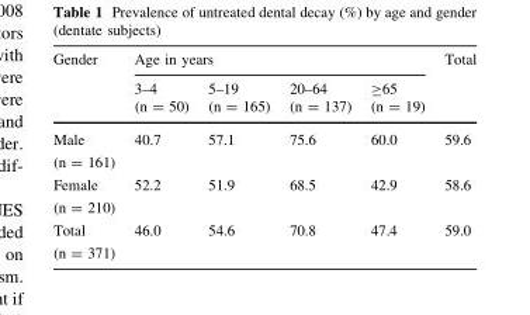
<table><thead><tr><td rowspan="2">Gender</td><td colspan="4">Age in years</td><td rowspan="2">Total</td></tr><tr><td>3–4 (n = 50)</td><td>5–19 (n = 165)</td><td>20–64 (n = 137)</td><td>≥65 (n = 19)</td></tr></thead><tbody><tr><td>Male (n = 161)</td><td>40.7</td><td>57.1</td><td>75.6</td><td>60.0</td><td>59.6</td></tr><tr><td>Female (n = 210)</td><td>52.2</td><td>51.9</td><td>68.5</td><td>42.9</td><td>58.6</td></tr><tr><td>Total (n = 371)</td><td>46.0</td><td>54.6</td><td>70.8</td><td>47.4</td><td>59.0</td></tr></tbody></table>